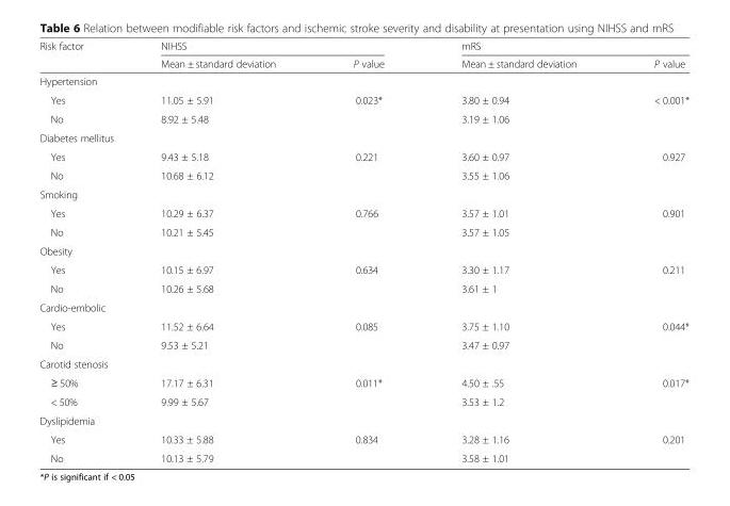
<table><thead><tr><td rowspan="2">Risk factor</td><td colspan="2">NIHSS</td><td colspan="2">mRS</td></tr><tr><td>Mean ± standard deviation</td><td>P value</td><td>Mean ± standard deviation</td><td>P value</td></tr></thead><tbody><tr><td colspan="5">Hypertension</td></tr><tr><td>Yes</td><td>11.05 ± 5.91</td><td>0.023*</td><td>3.80 ± 0.94</td><td rowspan="2">&lt; 0.001*</td></tr><tr><td>No</td><td>8.92 ± 5.48</td><td></td><td>3.19 ± 1.06</td></tr><tr><td colspan="5">Diabetes mellitus</td></tr><tr><td>Yes</td><td>9.43 ± 5.18</td><td>0.221</td><td>3.60 ± 0.97</td><td rowspan="2">0.927</td></tr><tr><td>No</td><td>10.68 ± 6.12</td><td></td><td>3.55 ± 1.06</td></tr><tr><td colspan="5">Smoking</td></tr><tr><td>Yes</td><td>10.29 ± 6.37</td><td>0.766</td><td>3.57 ± 1.01</td><td rowspan="2">0.901</td></tr><tr><td>No</td><td>10.21 ± 5.45</td><td></td><td>3.57 ± 1.05</td></tr><tr><td colspan="5">Obesity</td></tr><tr><td>Yes</td><td>10.15 ± 6.97</td><td>0.634</td><td>3.30 ± 1.17</td><td rowspan="2">0.211</td></tr><tr><td>No</td><td>10.26 ± 5.68</td><td></td><td>3.61 ± 1</td></tr><tr><td colspan="5">Cardio-embolic</td></tr><tr><td>Yes</td><td>11.52 ± 6.64</td><td>0.085</td><td>3.75 ± 1.10</td><td rowspan="2">0.044*</td></tr><tr><td>No</td><td>9.53 ± 5.21</td><td></td><td>3.47 ± 0.97</td></tr><tr><td colspan="5">Carotid stenosis</td></tr><tr><td>≥ 50%</td><td>17.17 ± 6.31</td><td>0.011*</td><td>4.50 ± .55</td><td rowspan="2">0.017*</td></tr><tr><td>&lt; 50%</td><td>9.99 ± 5.67</td><td></td><td>3.53 ± 1.2</td></tr><tr><td colspan="5">Dyslipidemia</td></tr><tr><td>Yes</td><td>10.33 ± 5.88</td><td>0.834</td><td>3.28 ± 1.16</td><td rowspan="2">0.201</td></tr><tr><td>No</td><td>10.13 ± 5.79</td><td></td><td>3.58 ± 1.01</td></tr></tbody></table>